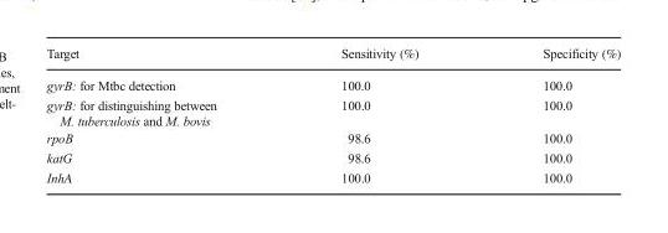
<table><thead><tr><td>Target</td><td>Sensitivity (%)</td><td>Specificity (%)</td></tr></thead><tbody><tr><td>gyrB: for Mtbc detection</td><td>100.0</td><td>100.0</td></tr><tr><td>gyrB: for distinguishing between M. tuberculosis and M. bovis</td><td>100.0</td><td>100.0</td></tr><tr><td>rpoB</td><td>98.6</td><td>100.0</td></tr><tr><td>katG</td><td>98.6</td><td>100.0</td></tr><tr><td>InhA</td><td>100.0</td><td>100.0</td></tr></tbody></table>